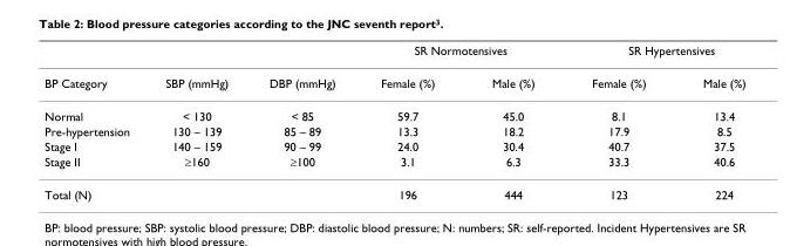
<table><thead><tr><td rowspan="2">BP Category</td><td rowspan="2">SBP (mmHg)</td><td rowspan="2">DBP (mmHg)</td><td colspan="2">SR Normotensives</td><td colspan="2">SR Hypertensives</td></tr><tr><td>Female (%)</td><td>Male (%)</td><td>Female (%)</td><td>Male (%)</td></tr></thead><tbody><tr><td>Normal</td><td>&lt; 130</td><td>&lt; 85</td><td>59.7</td><td>45.0</td><td>8.1</td><td>13.4</td></tr><tr><td>Pre-hypertension</td><td>130 – 139</td><td>85 – 89</td><td>13.3</td><td>18.2</td><td>17.9</td><td>8.5</td></tr><tr><td>Stage I</td><td>140 – 159</td><td>90 – 99</td><td>24.0</td><td>30.4</td><td>40.7</td><td>37.5</td></tr><tr><td>Stage II</td><td>≥160</td><td>≥100</td><td>3.1</td><td>6.3</td><td>33.3</td><td>40.6</td></tr><tr><td>Total (N)</td><td></td><td></td><td>196</td><td>444</td><td>123</td><td>224</td></tr></tbody></table>